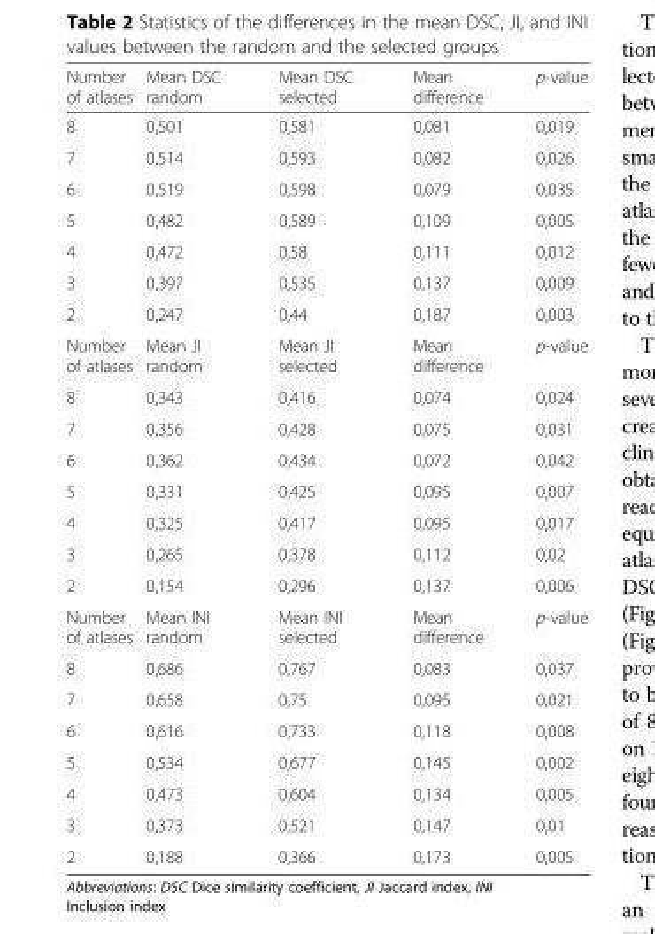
<table><thead><tr><td>Number of atlases</td><td>Mean DSC random</td><td>Mean DSC selected</td><td>Mean difference</td><td>p-value</td></tr></thead><tbody><tr><td>8</td><td>0,501</td><td>0,581</td><td>0,081</td><td>0,019</td></tr><tr><td>7</td><td>0,514</td><td>0,593</td><td>0,082</td><td>0,026</td></tr><tr><td>6</td><td>0,519</td><td>0,598</td><td>0,079</td><td>0,035</td></tr><tr><td>5</td><td>0,482</td><td>0,589</td><td>0,109</td><td>0,005</td></tr><tr><td>4</td><td>0,472</td><td>0,58</td><td>0,111</td><td>0,012</td></tr><tr><td>3</td><td>0,397</td><td>0,535</td><td>0,137</td><td>0,009</td></tr><tr><td>2</td><td>0,247</td><td>0,44</td><td>0,187</td><td>0,003</td></tr><tr><td>Number of atlases</td><td>Mean JI random</td><td>Mean JI selected</td><td>Mean difference</td><td>p-value</td></tr><tr><td>8</td><td>0,343</td><td>0,416</td><td>0,074</td><td>0,024</td></tr><tr><td>7</td><td>0,356</td><td>0,428</td><td>0,075</td><td>0,031</td></tr><tr><td>6</td><td>0,362</td><td>0,434</td><td>0,072</td><td>0,042</td></tr><tr><td>5</td><td>0,331</td><td>0,425</td><td>0,095</td><td>0,007</td></tr><tr><td>4</td><td>0,325</td><td>0,417</td><td>0,095</td><td>0,017</td></tr><tr><td>3</td><td>0,265</td><td>0,378</td><td>0,112</td><td>0,02</td></tr><tr><td>2</td><td>0,154</td><td>0,296</td><td>0,137</td><td>0,006</td></tr><tr><td>Number of atlases</td><td>Mean INI random</td><td>Mean INI selected</td><td>Mean difference</td><td>p-value</td></tr><tr><td>8</td><td>0,686</td><td>0,767</td><td>0,083</td><td>0,037</td></tr><tr><td>7</td><td>0,658</td><td>0,75</td><td>0,095</td><td>0,021</td></tr><tr><td>6</td><td>0,616</td><td>0,733</td><td>0,118</td><td>0,008</td></tr><tr><td>5</td><td>0,534</td><td>0,677</td><td>0,145</td><td>0,002</td></tr><tr><td>4</td><td>0,473</td><td>0,604</td><td>0,134</td><td>0,005</td></tr><tr><td>3</td><td>0,373</td><td>0,521</td><td>0,147</td><td>0,01</td></tr><tr><td>2</td><td>0,188</td><td>0,366</td><td>0,173</td><td>0,005</td></tr></tbody></table>